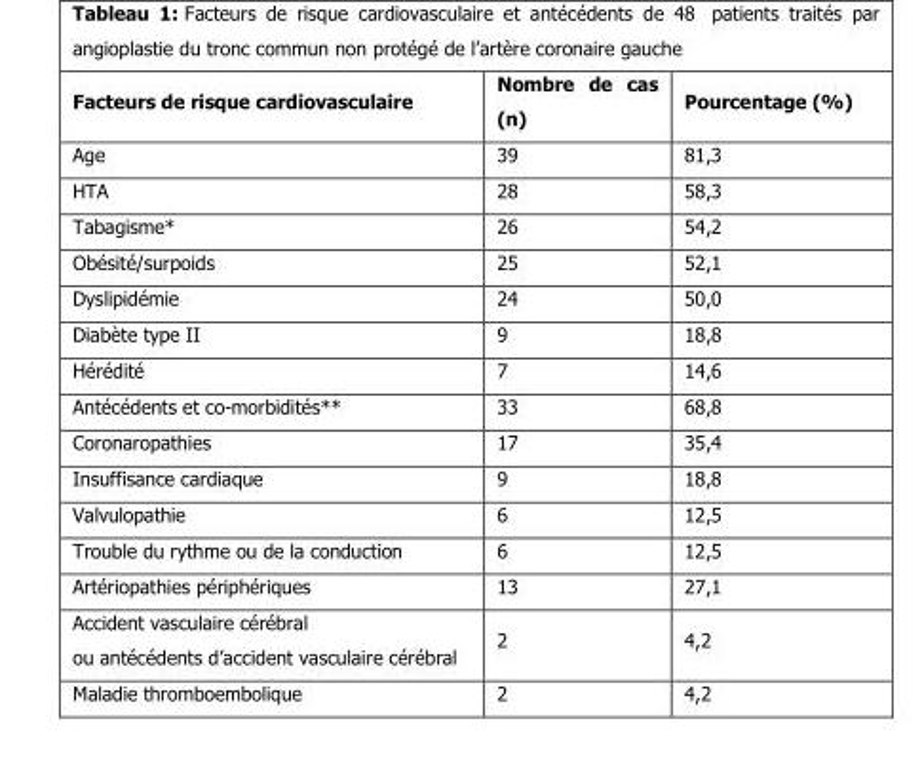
<table><thead><tr><td>Facteurs de risque cardiovasculaire</td><td>Nombre de cas (n)</td><td>Pourcentage (%)</td></tr></thead><tbody><tr><td>Age</td><td>39</td><td>81,3</td></tr><tr><td>HTA</td><td>28</td><td>58,3</td></tr><tr><td>Tabagisme*</td><td>26</td><td>54,2</td></tr><tr><td>Obésité/surpoids</td><td>25</td><td>52,1</td></tr><tr><td>Dyslipidémie</td><td>24</td><td>50,0</td></tr><tr><td>Diabète type II</td><td>9</td><td>18,8</td></tr><tr><td>Hérédité</td><td>7</td><td>14,6</td></tr><tr><td>Antécédents et co-morbidités**</td><td>33</td><td>68,8</td></tr><tr><td>Coronaropathies</td><td>17</td><td>35,4</td></tr><tr><td>Insuffisance cardiaque</td><td>9</td><td>18,8</td></tr><tr><td>Valvulopathie</td><td>6</td><td>12,5</td></tr><tr><td>Trouble du rythme ou de la conduction</td><td>6</td><td>12,5</td></tr><tr><td>Artériopathies périphériques</td><td>13</td><td>27,1</td></tr><tr><td>Accident vasculaire cérébral ou antécédents d’accident vasculaire cérébral</td><td>2</td><td>4,2</td></tr><tr><td>Maladie thromboembolique</td><td>2</td><td>4,2</td></tr></tbody></table>